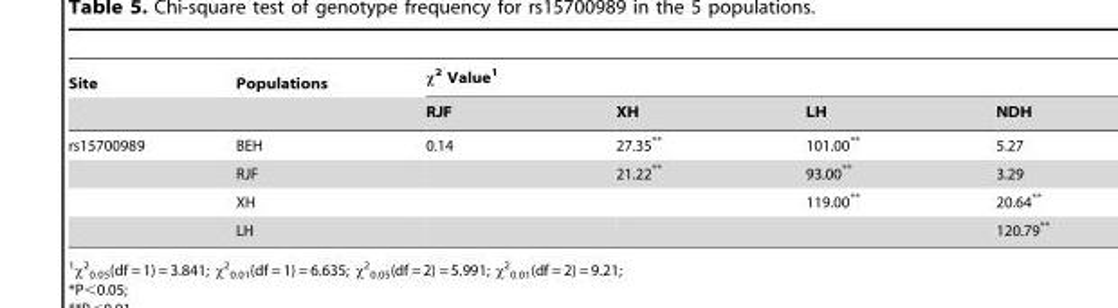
<table><thead><tr><td rowspan="2">Site</td><td rowspan="2">Populations</td><td colspan="4">χ<sup>2</sup> Value<sup>1</sup></td></tr><tr><td>RJF</td><td>XH</td><td>LH</td><td>NDH</td></tr></thead><tbody><tr><td rowspan="4">rs15700989</td><td>BEH</td><td>0.14</td><td>27.35**</td><td>101.00**</td><td>5.27</td></tr><tr><td>RJF</td><td></td><td>21.22**</td><td>93.00**</td><td>3.29</td></tr><tr><td>XH</td><td></td><td></td><td>119.00**</td><td>20.64**</td></tr><tr><td>LH</td><td></td><td></td><td></td><td>120.79**</td></tr></tbody></table>